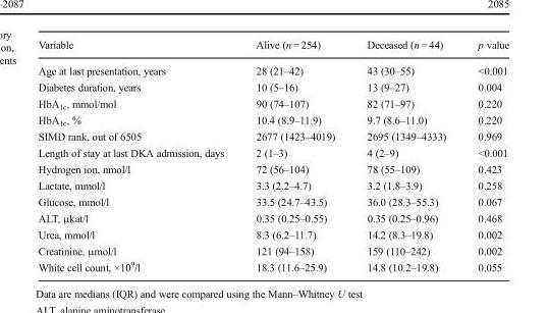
<table><thead><tr><td>Variable</td><td>Alive (n = 254)</td><td>Deceased (n = 44)</td><td>p value</td></tr></thead><tbody><tr><td>Age at last presentation, years</td><td>28 (21–42)</td><td>43 (30–55)</td><td>&lt;0.001</td></tr><tr><td>Diabetes duration, years</td><td>10 (5–16)</td><td>13 (9–27)</td><td>0.004</td></tr><tr><td>HbA<sub>1c</sub>, mmol/mol</td><td>90 (74–107)</td><td>82 (71–97)</td><td>0.220</td></tr><tr><td>HbA<sub>1c</sub>, %</td><td>10.4 (8.9–11.9)</td><td>9.7 (8.6–11.0)</td><td>0.220</td></tr><tr><td>SIMD rank, out of 6505</td><td>2677 (1423–4019)</td><td>2695 (1349–4333)</td><td>0.969</td></tr><tr><td>Length of stay at last DKA admission, days</td><td>2 (1–3)</td><td>4 (2–9)</td><td>&lt;0.001</td></tr><tr><td>Hydrogen ion, nmol/l</td><td>72 (56–104)</td><td>78 (55–109)</td><td>0.423</td></tr><tr><td>Lactate, mmol/l</td><td>3.3 (2.2–4.7)</td><td>3.2 (1.8–3.9)</td><td>0.258</td></tr><tr><td>Glucose, mmol/l</td><td>33.5 (24.7–43.5)</td><td>36.0 (28.3–55.3)</td><td>0.067</td></tr><tr><td>ALT, μkat/l</td><td>0.35 (0.25–0.55)</td><td>0.35 (0.25–0.96)</td><td>0.468</td></tr><tr><td>Urea, mmol/l</td><td>8.3 (6.2–11.7)</td><td>14.2 (8.3–19.8)</td><td>0.002</td></tr><tr><td>Creatinine, μmol/l</td><td>121 (94–158)</td><td>159 (110–242)</td><td>0.002</td></tr><tr><td>White cell count, ×10<sup>9</sup>/l</td><td>18.3 (11.6–25.9)</td><td>14.8 (10.2–19.8)</td><td>0.055</td></tr></tbody></table>